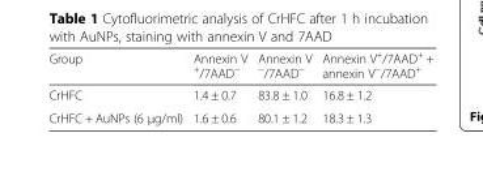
<table><thead><tr><td>Group</td><td>Аnnexin V <sup>+</sup>/7AAD<sup>−</sup></td><td>Аnnexin V <sup>−</sup>/7AAD<sup>−</sup></td><td>Аnnexin V<sup>+</sup>/7AAD<sup>+</sup> + annexin V<sup>−</sup>/7AAD<sup>+</sup></td></tr></thead><tbody><tr><td>CrHFC</td><td>1.4 ± 0.7</td><td>83.8 ± 1.0</td><td>16.8 ± 1.2</td></tr><tr><td>CrHFC + AuNPs (6 μg/ml)</td><td>1.6 ± 0.6</td><td>80.1 ± 1.2</td><td>18.3 ± 1.3</td></tr></tbody></table>